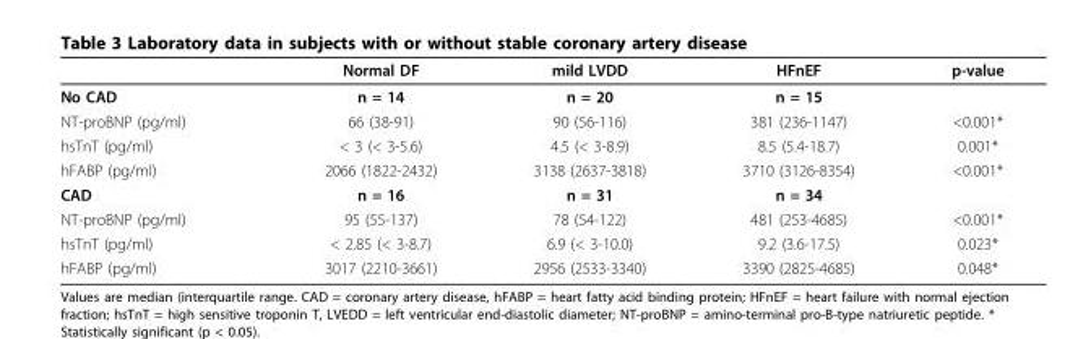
<table><thead><tr><td></td><td>Normal DF</td><td>mild LVDD</td><td>HFnEF</td><td>p-value</td></tr></thead><tbody><tr><td>No CAD</td><td>n = 14</td><td>n = 20</td><td>n = 15</td><td></td></tr><tr><td>NT-proBNP (pg/ml)</td><td>66 (38-91)</td><td>90 (56-116)</td><td>381 (236-1147)</td><td>&lt;0.001*</td></tr><tr><td>hsTnT (pg/ml)</td><td>&lt; 3 (&lt; 3-5.6)</td><td>4.5 (&lt; 3-8.9)</td><td>8.5 (5.4-18.7)</td><td>0.001*</td></tr><tr><td>hFABP (pg/ml)</td><td>2066 (1822-2432)</td><td>3138 (2637-3818)</td><td>3710 (3126-8354)</td><td>&lt;0.001*</td></tr><tr><td>CAD</td><td>n = 16</td><td>n = 31</td><td>n = 34</td><td></td></tr><tr><td>NT-proBNP (pg/ml)</td><td>95 (55-137)</td><td>78 (54-122)</td><td>481 (253-4685)</td><td>&lt;0.001*</td></tr><tr><td>hsTnT (pg/ml)</td><td>&lt; 2.85 (&lt; 3-8.7)</td><td>6.9 (&lt; 3-10.0)</td><td>9.2 (3.6-17.5)</td><td>0.023*</td></tr><tr><td>hFABP (pg/ml)</td><td>3017 (2210-3661)</td><td>2956 (2533-3340)</td><td>3390 (2825-4685)</td><td>0.048*</td></tr></tbody></table>